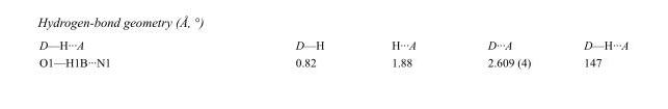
<table><tbody><tr><td>D—H···A</td><td>D—H</td><td>H···A</td><td>D···A</td><td>D—H···A</td></tr><tr><td>O1—H1B···N1</td><td>0.82</td><td>1.88</td><td>2.609 (4)</td><td>147</td></tr></tbody></table>